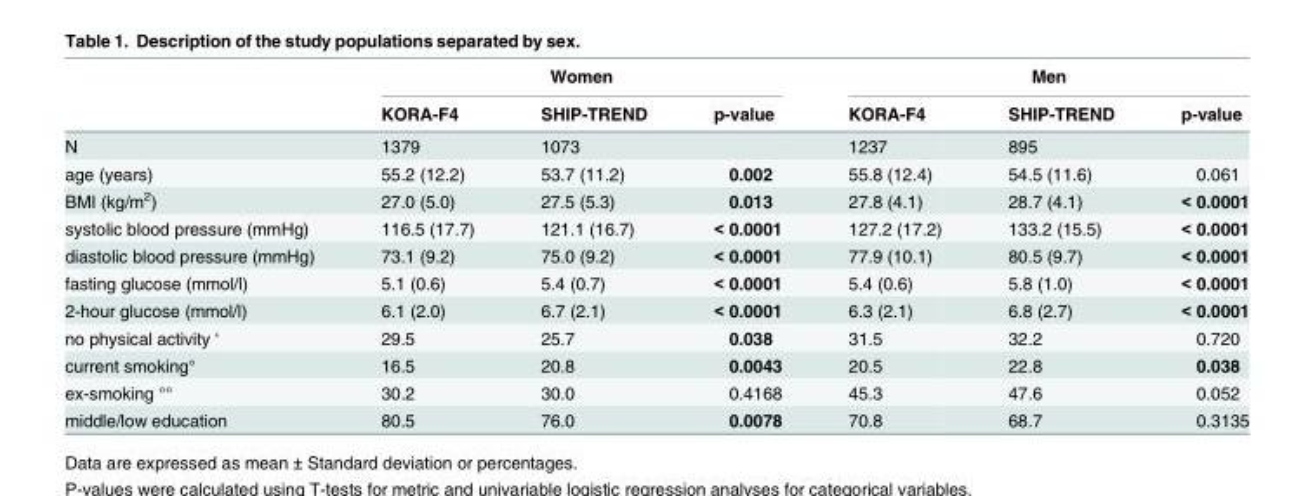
<table><thead><tr><td rowspan="2"></td><td colspan="3">Women</td><td colspan="3">Men</td></tr><tr><td>KORA-F4</td><td>SHIP-TREND</td><td>p-value</td><td>KORA-F4</td><td>SHIP-TREND</td><td>p-value</td></tr></thead><tbody><tr><td>N</td><td>1379</td><td>1073</td><td></td><td>1237</td><td>895</td><td></td></tr><tr><td>age (years)</td><td>55.2 (12.2)</td><td>53.7 (11.2)</td><td>0.002</td><td>55.8 (12.4)</td><td>54.5 (11.6)</td><td>0.061</td></tr><tr><td>BMI (kg/m<sup>2</sup>)</td><td>27.0 (5.0)</td><td>27.5 (5.3)</td><td>0.013</td><td>27.8 (4.1)</td><td>28.7 (4.1)</td><td>&lt; 0.0001</td></tr><tr><td>systolic blood pressure (mmHg)</td><td>116.5 (17.7)</td><td>121.1 (16.7)</td><td>&lt; 0.0001</td><td>127.2 (17.2)</td><td>133.2 (15.5)</td><td>&lt; 0.0001</td></tr><tr><td>diastolic blood pressure (mmHg)</td><td>73.1 (9.2)</td><td>75.0 (9.2)</td><td>&lt; 0.0001</td><td>77.9 (10.1)</td><td>80.5 (9.7)</td><td>&lt; 0.0001</td></tr><tr><td>fasting glucose (mmol/l)</td><td>5.1 (0.6)</td><td>5.4 (0.7)</td><td>&lt; 0.0001</td><td>5.4 (0.6)</td><td>5.8 (1.0)</td><td>&lt; 0.0001</td></tr><tr><td>2-hour glucose (mmol/l)</td><td>6.1 (2.0)</td><td>6.7 (2.1)</td><td>&lt; 0.0001</td><td>6.3 (2.1)</td><td>6.8 (2.7)</td><td>&lt; 0.0001</td></tr><tr><td>no physical activity ‘</td><td>29.5</td><td>25.7</td><td>0.038</td><td>31.5</td><td>32.2</td><td>0.720</td></tr><tr><td>current smoking°</td><td>16.5</td><td>20.8</td><td>0.0043</td><td>20.5</td><td>22.8</td><td>0.038</td></tr><tr><td>ex-smoking °°</td><td>30.2</td><td>30.0</td><td>0.4168</td><td>45.3</td><td>47.6</td><td>0.052</td></tr><tr><td>middle/low education</td><td>80.5</td><td>76.0</td><td>0.0078</td><td>70.8</td><td>68.7</td><td>0.3135</td></tr></tbody></table>